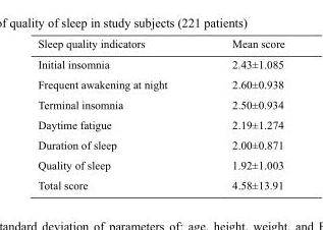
<table><thead><tr><td>Sleep quality indicators</td><td>Mean score</td></tr></thead><tbody><tr><td>Initial insomnia</td><td>2.43±1.085</td></tr><tr><td>Frequent awakening at night</td><td>2.60±0.938</td></tr><tr><td>Terminal insomnia</td><td>2.50±0.934</td></tr><tr><td>Daytime fatigue</td><td>2.19±1.274</td></tr><tr><td>Duration of sleep</td><td>2.00±0.871</td></tr><tr><td>Quality of sleep</td><td>1.92±1.003</td></tr><tr><td>Total score</td><td>4.58±13.91</td></tr></tbody></table>